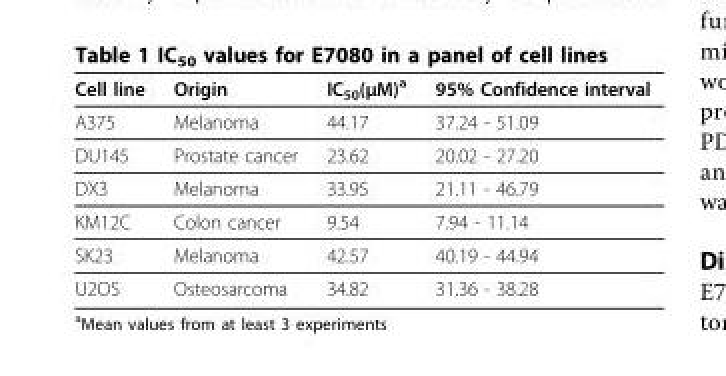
<table><thead><tr><td>Cell line</td><td>Origin</td><td>IC<sub>50</sub>(μM)<sup>a</sup></td><td>95% Confidence interval</td></tr></thead><tbody><tr><td>A375</td><td>Melanoma</td><td>44.17</td><td>37.24 - 51.09</td></tr><tr><td>DU145</td><td>Prostate cancer</td><td>23.62</td><td>20.02 - 27.20</td></tr><tr><td>DX3</td><td>Melanoma</td><td>33.95</td><td>21.11 - 46.79</td></tr><tr><td>KM12C</td><td>Colon cancer</td><td>9.54</td><td>7.94 - 11.14</td></tr><tr><td>SK23</td><td>Melanoma</td><td>42.57</td><td>40.19 - 44.94</td></tr><tr><td>U2OS</td><td>Osteosarcoma</td><td>34.82</td><td>31.36 - 38.28</td></tr></tbody></table>